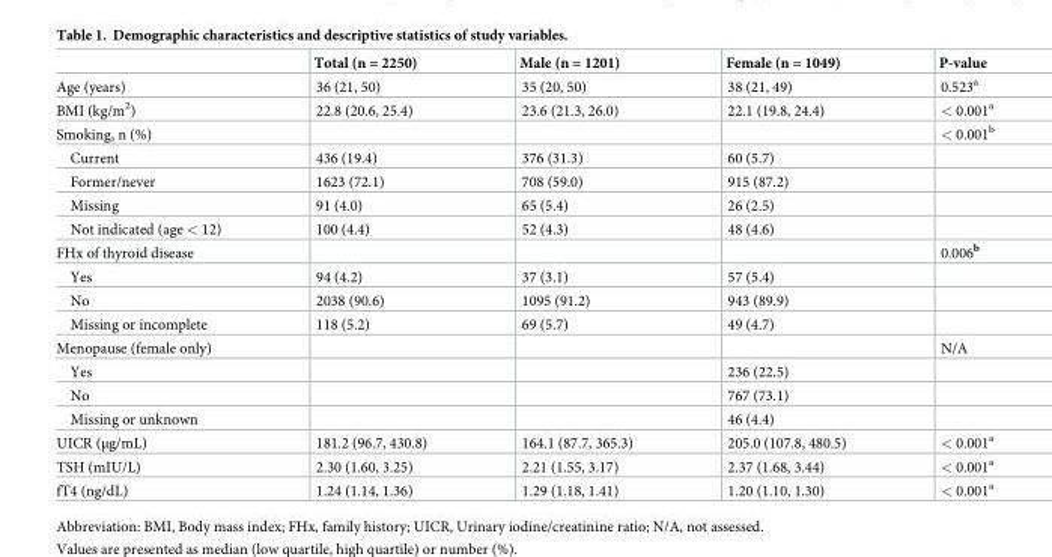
<table><thead><tr><td></td><td>Total (n = 2250)</td><td>Male (n = 1201)</td><td>Female (n = 1049)</td><td>P-value</td></tr></thead><tbody><tr><td>Age (years)</td><td>36 (21, 50)</td><td>35 (20, 50)</td><td>38 (21, 49)</td><td>0.523<sup>a</sup></td></tr><tr><td>BMI (kg/m<sup>2</sup>)</td><td>22.8 (20.6, 25.4)</td><td>23.6 (21.3, 26.0)</td><td>22.1 (19.8, 24.4)</td><td>&lt; 0.001<sup>a</sup></td></tr><tr><td>Smoking, n (%)</td><td></td><td></td><td></td><td>&lt; 0.001<sup>b</sup></td></tr><tr><td>Current</td><td>436 (19.4)</td><td>376 (31.3)</td><td>60 (5.7)</td><td></td></tr><tr><td>Former/never</td><td>1623 (72.1)</td><td>708 (59.0)</td><td>915 (87.2)</td><td></td></tr><tr><td>Missing</td><td>91 (4.0)</td><td>65 (5.4)</td><td>26 (2.5)</td><td></td></tr><tr><td>Not indicated (age &lt; 12)</td><td>100 (4.4)</td><td>52 (4.3)</td><td>48 (4.6)</td><td></td></tr><tr><td>FHx of thyroid disease</td><td></td><td></td><td></td><td>0.006<sup>b</sup></td></tr><tr><td>Yes</td><td>94 (4.2)</td><td>37 (3.1)</td><td>57 (5.4)</td><td></td></tr><tr><td>No</td><td>2038 (90.6)</td><td>1095 (91.2)</td><td>943 (89.9)</td><td></td></tr><tr><td>Missing or incomplete</td><td>118 (5.2)</td><td>69 (5.7)</td><td>49 (4.7)</td><td></td></tr><tr><td>Menopause (female only)</td><td></td><td></td><td></td><td>N/A</td></tr><tr><td>Yes</td><td></td><td></td><td>236 (22.5)</td><td></td></tr><tr><td>No</td><td></td><td></td><td>767 (73.1)</td><td></td></tr><tr><td>Missing or unknown</td><td></td><td></td><td>46 (4.4)</td><td></td></tr><tr><td>UICR (μg/mL)</td><td>181.2 (96.7, 430.8)</td><td>164.1 (87.7, 365.3)</td><td>205.0 (107.8, 480.5)</td><td>&lt; 0.001<sup>a</sup></td></tr><tr><td>TSH (mIU/L)</td><td>2.30 (1.60, 3.25)</td><td>2.21 (1.55, 3.17)</td><td>2.37 (1.68, 3.44)</td><td>&lt; 0.001<sup>a</sup></td></tr><tr><td>fT4 (ng/dL)</td><td>1.24 (1.14, 1.36)</td><td>1.29 (1.18, 1.41)</td><td>1.20 (1.10, 1.30)</td><td>&lt; 0.001<sup>a</sup></td></tr></tbody></table>